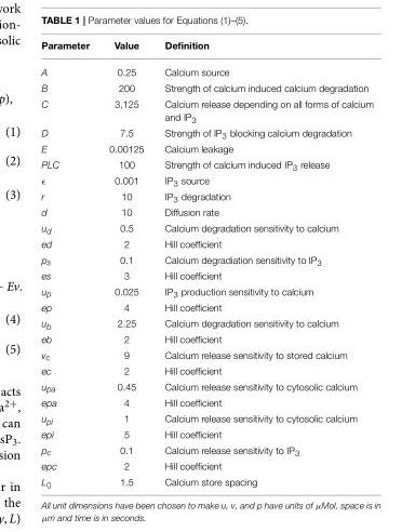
<table><thead><tr><td>Parameter</td><td>Value</td><td>Definition</td></tr></thead><tbody><tr><td>A</td><td>0.25</td><td>Calcium source</td></tr><tr><td>B</td><td>200</td><td>Strength of calcium induced calcium degradation</td></tr><tr><td>C</td><td>3,125</td><td>Calcium release depending on all forms of calcium and IP<sub>3</sub></td></tr><tr><td>D</td><td>7.5</td><td>Strength of IP<sub>3</sub> blocking calcium degradation</td></tr><tr><td>E</td><td>0.00125</td><td>Calcium leakage</td></tr><tr><td>PLC</td><td>100</td><td>Strength of calcium induced IP<sub>3</sub> release</td></tr><tr><td>ǫ</td><td>0.001</td><td>IP<sub>3</sub> source</td></tr><tr><td>r</td><td>10</td><td>IP<sub>3</sub> degradation</td></tr><tr><td>d</td><td>10</td><td>Diffusion rate</td></tr><tr><td>u<sub>d</sub></td><td>0.5</td><td>Calcium degradation sensitivity to calcium</td></tr><tr><td>ed</td><td>2</td><td>Hill coefficient</td></tr><tr><td>p<sub>s</sub></td><td>0.1</td><td>Calcium degradiation sensitivity to IP<sub>3</sub></td></tr><tr><td>es</td><td>3</td><td>Hill coefficient</td></tr><tr><td>u<sub>p</sub></td><td>0.025</td><td>IP<sub>3</sub> production sensitivity to calcium</td></tr><tr><td>ep</td><td>4</td><td>Hill coefficient</td></tr><tr><td>u<sub>b</sub></td><td>2.25</td><td>Calcium degradation sensitivity to calcium</td></tr><tr><td>eb</td><td>2</td><td>Hill coefficient</td></tr><tr><td>v<sub>c</sub></td><td>9</td><td>Calcium release sensitivity to stored calcium</td></tr><tr><td>ec</td><td>2</td><td>Hill coefficient</td></tr><tr><td>u<sub>pa</sub></td><td>0.45</td><td>Calcium release sensitivity to cytosolic calcium</td></tr><tr><td>epa</td><td>4</td><td>Hill coefficient</td></tr><tr><td>u<sub>pi</sub></td><td>1</td><td>Calcium release sensitivity to cytosolic calcium</td></tr><tr><td>epi</td><td>5</td><td>Hill coefficient</td></tr><tr><td>p<sub>c</sub></td><td>0.1</td><td>Calcium release sensitivity to IP<sub>3</sub></td></tr><tr><td>epc</td><td>2</td><td>Hill coefficient</td></tr><tr><td>L<sub>0</sub></td><td>1.5</td><td>Calcium store spacing</td></tr></tbody></table>